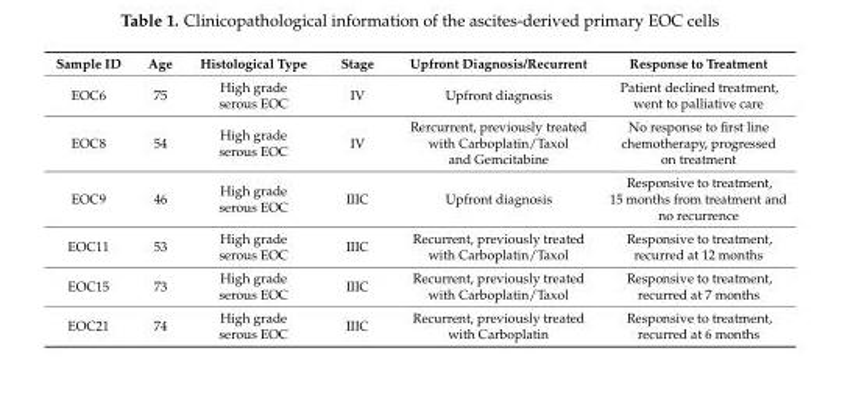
<table><thead><tr><td>Sample ID</td><td>Age</td><td>Histological Type</td><td>Stage</td><td>Upfront Diagnosis/Recurrent</td><td>Response to Treatment</td></tr></thead><tbody><tr><td>EOC6</td><td>75</td><td>High grade serous EOC</td><td>IV</td><td>Upfront diagnosis</td><td>Patient declined treatment, went to palliative care</td></tr><tr><td>EOC8</td><td>54</td><td>High grade serous EOC</td><td>IV</td><td>Rercurrent, previously treated with Carboplatin/Taxol and Gemcitabine</td><td>No response to first line chemotherapy, progressed on treatment</td></tr><tr><td>EOC9</td><td>46</td><td>High grade serous EOC</td><td>IIIC</td><td>Upfront diagnosis</td><td>Responsive to treatment, 15 months from treatment and no recurrence</td></tr><tr><td>EOC11</td><td>53</td><td>High grade serous EOC</td><td>IIIC</td><td>Recurrent, previously treated with Carboplatin/Taxol</td><td>Responsive to treatment, recurred at 12 months</td></tr><tr><td>EOC15</td><td>73</td><td>High grade serous EOC</td><td>IIIC</td><td>Recurrent, previously treated with Carboplatin/Taxol</td><td>Responsive to treatment, recurred at 7 months</td></tr><tr><td>EOC21</td><td>74</td><td>High grade serous EOC</td><td>IIIC</td><td>Recurrent, previously treated with Carboplatin</td><td>Responsive to treatment, recurred at 6 months</td></tr></tbody></table>